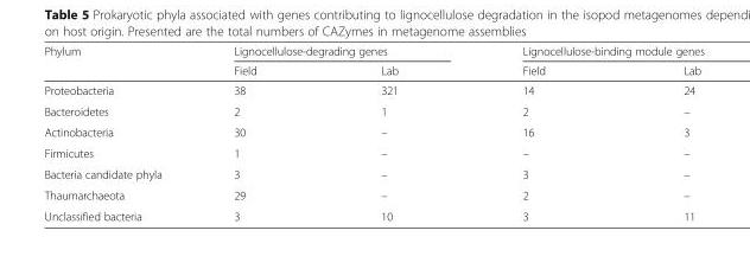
<table><thead><tr><td rowspan="2">Phylum</td><td colspan="2">Lignocellulose-degrading genes</td><td colspan="2">Lignocellulose-binding module genes</td></tr><tr><td>Field</td><td>Lab</td><td>Field</td><td>Lab</td></tr></thead><tbody><tr><td>Proteobacteria</td><td>38</td><td>321</td><td>14</td><td>24</td></tr><tr><td>Bacteroidetes</td><td>2</td><td>1</td><td>2</td><td>–</td></tr><tr><td>Actinobacteria</td><td>30</td><td>–</td><td>16</td><td>3</td></tr><tr><td>Firmicutes</td><td>1</td><td>–</td><td>–</td><td>–</td></tr><tr><td>Bacteria candidate phyla</td><td>3</td><td>–</td><td>3</td><td>–</td></tr><tr><td>Thaumarchaeota</td><td>29</td><td>–</td><td>2</td><td>–</td></tr><tr><td>Unclassified bacteria</td><td>3</td><td>10</td><td>3</td><td>11</td></tr></tbody></table>